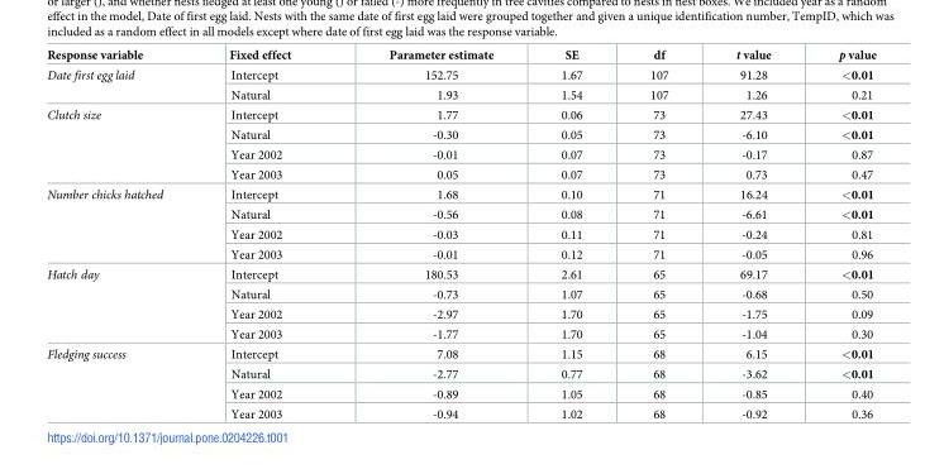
<table><thead><tr><td>Response variable</td><td>Fixed effect</td><td>Parameter estimate</td><td>SE</td><td>df</td><td>t value</td><td>p value</td></tr></thead><tbody><tr><td rowspan="2">Date first egg laid</td><td>Intercept</td><td>152.75</td><td>1.67</td><td>107</td><td>91.28</td><td>&lt;0.01</td></tr><tr><td>Natural</td><td>1.93</td><td>1.54</td><td>107</td><td>1.26</td><td>0.21</td></tr><tr><td rowspan="4">Clutch size</td><td>Intercept</td><td>1.77</td><td>0.06</td><td>73</td><td>27.43</td><td>&lt;0.01</td></tr><tr><td>Natural</td><td>-0.30</td><td>0.05</td><td>73</td><td>-6.10</td><td>&lt;0.01</td></tr><tr><td>Year 2002</td><td>-0.01</td><td>0.07</td><td>73</td><td>-0.17</td><td>0.87</td></tr><tr><td>Year 2003</td><td>0.05</td><td>0.07</td><td>73</td><td>0.73</td><td>0.47</td></tr><tr><td rowspan="4">Number chicks hatched</td><td>Intercept</td><td>1.68</td><td>0.10</td><td>71</td><td>16.24</td><td>&lt;0.01</td></tr><tr><td>Natural</td><td>-0.56</td><td>0.08</td><td>71</td><td>-6.61</td><td>&lt;0.01</td></tr><tr><td>Year 2002</td><td>-0.03</td><td>0.11</td><td>71</td><td>-0.24</td><td>0.81</td></tr><tr><td>Year 2003</td><td>-0.01</td><td>0.12</td><td>71</td><td>-0.05</td><td>0.96</td></tr><tr><td rowspan="4">Hatch day</td><td>Intercept</td><td>180.53</td><td>2.61</td><td>65</td><td>69.17</td><td>&lt;0.01</td></tr><tr><td>Natural</td><td>-0.73</td><td>1.07</td><td>65</td><td>-0.68</td><td>0.50</td></tr><tr><td>Year 2002</td><td>-2.97</td><td>1.70</td><td>65</td><td>-1.75</td><td>0.09</td></tr><tr><td>Year 2003</td><td>-1.77</td><td>1.70</td><td>65</td><td>-1.04</td><td>0.30</td></tr><tr><td rowspan="4">Fledging success</td><td>Intercept</td><td>7.08</td><td>1.15</td><td>68</td><td>6.15</td><td>&lt;0.01</td></tr><tr><td>Natural</td><td>-2.77</td><td>0.77</td><td>68</td><td>-3.62</td><td>&lt;0.01</td></tr><tr><td>Year 2002</td><td>-0.89</td><td>1.05</td><td>68</td><td>-0.85</td><td>0.40</td></tr><tr><td>Year 2003</td><td>-0.94</td><td>1.02</td><td>68</td><td>-0.92</td><td>0.36</td></tr></tbody></table>